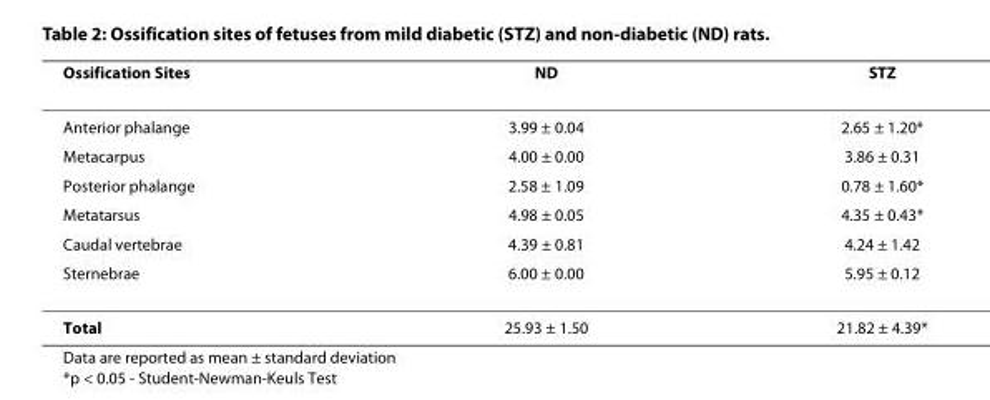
<table><thead><tr><td>Ossification Sites</td><td>ND</td><td>STZ</td></tr></thead><tbody><tr><td>Anterior phalange</td><td>3.99 ± 0.04</td><td>2.65 ± 1.20*</td></tr><tr><td>Metacarpus</td><td>4.00 ± 0.00</td><td>3.86 ± 0.31</td></tr><tr><td>Posterior phalange</td><td>2.58 ± 1.09</td><td>0.78 ± 1.60*</td></tr><tr><td>Metatarsus</td><td>4.98 ± 0.05</td><td>4.35 ± 0.43*</td></tr><tr><td>Caudal vertebrae</td><td>4.39 ± 0.81</td><td>4.24 ± 1.42</td></tr><tr><td>Sternebrae</td><td>6.00 ± 0.00</td><td>5.95 ± 0.12</td></tr><tr><td>Total</td><td>25.93 ± 1.50</td><td>21.82 ± 4.39*</td></tr></tbody></table>